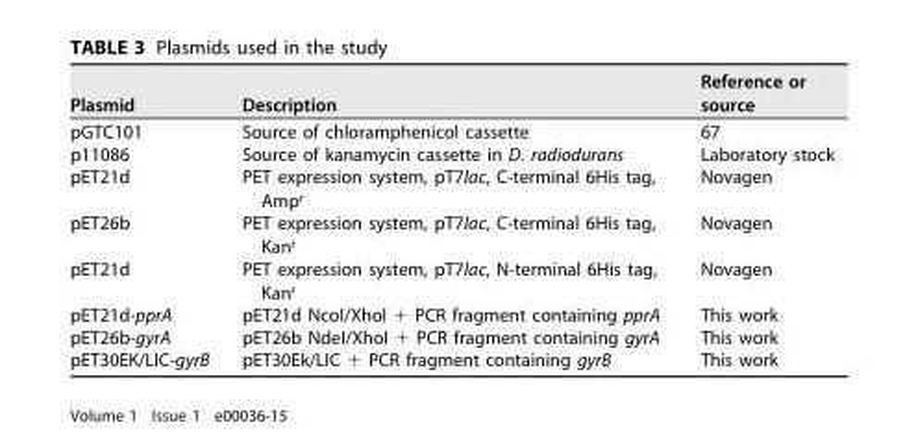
<table><thead><tr><td>Plasmid</td><td>Description</td><td>Reference or source</td></tr></thead><tbody><tr><td>pGTC101</td><td>Source of chloramphenicol cassette</td><td>67</td></tr><tr><td>p11086</td><td>Source of kanamycin cassette in D. radiodurans</td><td>Laboratory stock</td></tr><tr><td>pET21d</td><td>PET expression system, pT7lac, C-terminal 6His tag, Amp<sup>r</sup></td><td>Novagen</td></tr><tr><td>pET26b</td><td>PET expression system, pT7lac, C-terminal 6His tag, Kan<sup>r</sup></td><td>Novagen</td></tr><tr><td>pET21d</td><td>PET expression system, pT7lac, N-terminal 6His tag, Kan<sup>r</sup></td><td>Novagen</td></tr><tr><td>pET21d-pprA</td><td>pET21d NcoI/XhoI + PCR fragment containing pprA</td><td>This work</td></tr><tr><td>pET26b-gyrA</td><td>pET26b NdeI/XhoI + PCR fragment containing gyrA</td><td>This work</td></tr><tr><td>pET30EK/LIC-gyrB</td><td>pET30Ek/LIC + PCR fragment containing gyrB</td><td>This work</td></tr></tbody></table>